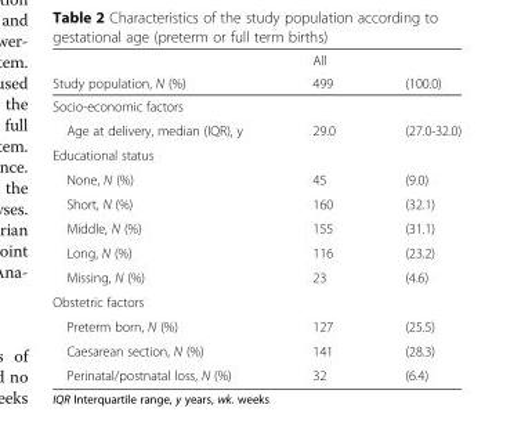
<table><thead><tr><td rowspan="2">Study population, N (%)</td><td rowspan="2">All 499</td><td rowspan="2">(100.0)</td></tr><tr></tr></thead><tbody><tr><td colspan="3">Socio-economic factors</td></tr><tr><td>Age at delivery, median (IQR), y</td><td>29.0</td><td>(27.0-32.0)</td></tr><tr><td colspan="3">Educational status</td></tr><tr><td>None, N (%)</td><td>45</td><td>(9.0)</td></tr><tr><td>Short, N (%)</td><td>160</td><td>(32.1)</td></tr><tr><td>Middle, N (%)</td><td>155</td><td>(31.1)</td></tr><tr><td>Long, N (%)</td><td>116</td><td>(23.2)</td></tr><tr><td>Missing, N (%)</td><td>23</td><td>(4.6)</td></tr><tr><td colspan="3">Obstetric factors</td></tr><tr><td>Preterm born, N (%)</td><td>127</td><td>(25.5)</td></tr><tr><td>Caesarean section, N (%)</td><td>141</td><td>(28.3)</td></tr><tr><td>Perinatal/postnatal loss, N (%)</td><td>32</td><td>(6.4)</td></tr></tbody></table>